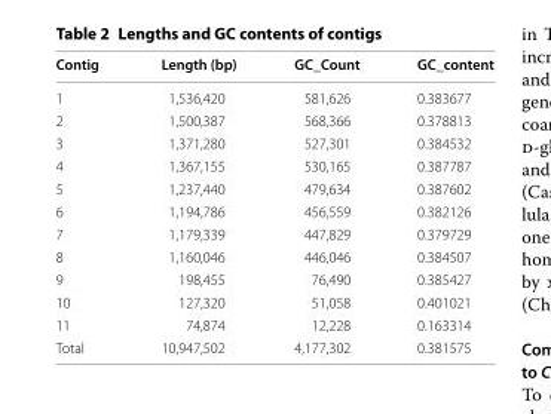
<table><thead><tr><td>Contig</td><td>Length (bp)</td><td>GC_Count</td><td>GC_content</td></tr></thead><tbody><tr><td>1</td><td>1,536,420</td><td>581,626</td><td>0.383677</td></tr><tr><td>2</td><td>1,500,387</td><td>568,366</td><td>0.378813</td></tr><tr><td>3</td><td>1,371,280</td><td>527,301</td><td>0.384532</td></tr><tr><td>4</td><td>1,367,155</td><td>530,165</td><td>0.387787</td></tr><tr><td>5</td><td>1,237,440</td><td>479,634</td><td>0.387602</td></tr><tr><td>6</td><td>1,194,786</td><td>456,559</td><td>0.382126</td></tr><tr><td>7</td><td>1,179,339</td><td>447,829</td><td>0.379729</td></tr><tr><td>8</td><td>1,160,046</td><td>446,046</td><td>0.384507</td></tr><tr><td>9</td><td>198,455</td><td>76,490</td><td>0.385427</td></tr><tr><td>10</td><td>127,320</td><td>51,058</td><td>0.401021</td></tr><tr><td>11</td><td>74,874</td><td>12,228</td><td>0.163314</td></tr><tr><td>Total</td><td>10,947,502</td><td>4,177,302</td><td>0.381575</td></tr></tbody></table>